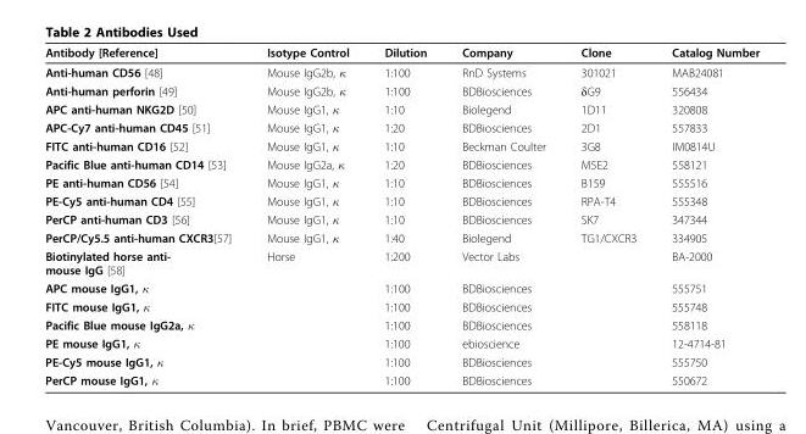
<table><thead><tr><td>Antibody [Reference]</td><td>Isotype Control</td><td>Dilution</td><td>Company</td><td>Clone</td><td>Catalog Number</td></tr></thead><tbody><tr><td>Anti-human CD56 [48]</td><td>Mouse IgG2b, κ</td><td>1:100</td><td>RnD Systems</td><td>301021</td><td>MAB24081</td></tr><tr><td>Anti-human perforin [49]</td><td>Mouse IgG2b, κ</td><td>1:100</td><td>BDBiosciences</td><td>δG9</td><td>556434</td></tr><tr><td>APC anti-human NKG2D [50]</td><td>Mouse IgG1, κ</td><td>1:10</td><td>Biolegend</td><td>1D11</td><td>320808</td></tr><tr><td>APC-Cy7 anti-human CD45 [51]</td><td>Mouse IgG1, κ</td><td>1:20</td><td>BDBiosciences</td><td>2D1</td><td>557833</td></tr><tr><td>FITC anti-human CD16 [52]</td><td>Mouse IgG1, κ</td><td>1:10</td><td>Beckman Coulter</td><td>3G8</td><td>IM0814U</td></tr><tr><td>Pacific Blue anti-human CD14 [53]</td><td>Mouse IgG2a, κ</td><td>1:20</td><td>BDBiosciences</td><td>M5E2</td><td>558121</td></tr><tr><td>PE anti-human CD56 [54]</td><td>Mouse IgG1, κ</td><td>1:10</td><td>BDBiosciences</td><td>B159</td><td>555516</td></tr><tr><td>PE-Cy5 anti-human CD4 [55]</td><td>Mouse IgG1, κ</td><td>1:10</td><td>BDBiosciences</td><td>RPA-T4</td><td>555348</td></tr><tr><td>PerCP anti-human CD3 [56]</td><td>Mouse IgG1, κ</td><td>1:10</td><td>BDBiosciences</td><td>SK7</td><td>347344</td></tr><tr><td>PerCP/Cy5.5 anti-human CXCR3[57]</td><td>Mouse IgG1, κ</td><td>1:40</td><td>Biolegend</td><td>TG1/CXCR3</td><td>334905</td></tr><tr><td>Biotinylated horse anti- mouse IgG [58]</td><td>Horse</td><td>1:200</td><td>Vector Labs</td><td></td><td>BA-2000</td></tr><tr><td>APC mouse IgG1, κ</td><td></td><td>1:100</td><td>BDBiosciences</td><td></td><td>555751</td></tr><tr><td>FITC mouse IgG1, κ</td><td></td><td>1:100</td><td>BDBiosciences</td><td></td><td>555748</td></tr><tr><td>Pacific Blue mouse IgG2a, κ</td><td></td><td>1:100</td><td>BDBiosciences</td><td></td><td>558118</td></tr><tr><td>PE mouse IgG1, κ</td><td></td><td>1:100</td><td>ebioscience</td><td></td><td>12-4714-81</td></tr><tr><td>PE-Cy5 mouse IgG1, κ</td><td></td><td>1:100</td><td>BDBiosciences</td><td></td><td>555750</td></tr><tr><td>PerCP mouse IgG1, κ</td><td></td><td>1:100</td><td>BDBiosciences</td><td></td><td>550672</td></tr></tbody></table>